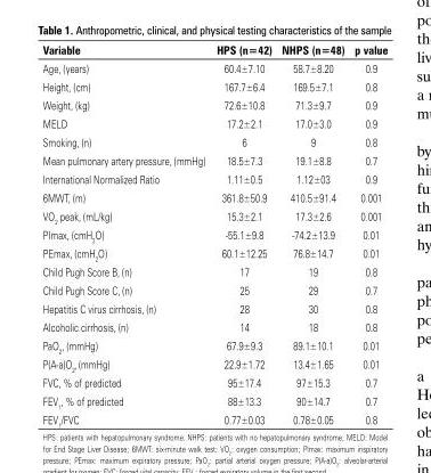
<table><thead><tr><td>Variable</td><td>HPS (n=42)</td><td>NHPS (n=48)</td><td>p value</td></tr></thead><tbody><tr><td>Age, (years)</td><td>60.4±7.10</td><td>58.7±8.20</td><td>0.9</td></tr><tr><td>Height, (cm)</td><td>167.7±6.4</td><td>169.5±7.1</td><td>0.8</td></tr><tr><td>Weight, (kg)</td><td>72.6±10.8</td><td>71.3±9.7</td><td>0.9</td></tr><tr><td>MELD</td><td>17.2±2.1</td><td>17.0±3.0</td><td>0.9</td></tr><tr><td>Smoking, (n)</td><td>6</td><td>9</td><td>0.8</td></tr><tr><td>Mean pulmonary artery pressure, (mmHg)</td><td>18.5±7.3</td><td>19.1±8.8</td><td>0.7</td></tr><tr><td>International Normalized Ratio</td><td>1.11±0.5</td><td>1.12±03</td><td>0.9</td></tr><tr><td>6MWT, (m)</td><td>361.8±50.9</td><td>410.5±91.4</td><td>0.001</td></tr><tr><td>VO<sub>2</sub> peak, (mL/kg)</td><td>15.3±2.1</td><td>17.3±2.6</td><td>0.001</td></tr><tr><td>PImax, (cmH<sub>2</sub>O)</td><td>-55.1±9.8</td><td>-74.2±13.9</td><td>0.01</td></tr><tr><td>PEmax, (cmH<sub>2</sub>O)</td><td>60.1±12.25</td><td>76.8±14.7</td><td>0.01</td></tr><tr><td>Child Pugh Score B, (n)</td><td>17</td><td>19</td><td>0.8</td></tr><tr><td>Child Pugh Score C, (n)</td><td>25</td><td>29</td><td>0.7</td></tr><tr><td>Hepatitis C virus cirrhosis, (n)</td><td>28</td><td>30</td><td>0.8</td></tr><tr><td>Alcoholic cirrhosis, (n)</td><td>14</td><td>18</td><td>0.8</td></tr><tr><td>PaO<sub>2</sub>, (mmHg)</td><td>67.9±9.3</td><td>89.1±10.1</td><td>0.01</td></tr><tr><td>P(A-a)O<sub>2</sub>, (mmHg)</td><td>22.9±1.72</td><td>13.4±1.65</td><td>0.01</td></tr><tr><td>FVC, % of predicted</td><td>95±17.4</td><td>97±15.3</td><td>0.7</td></tr><tr><td>FEV<sub>1</sub>, % of predicted</td><td>88±13.3</td><td>90±14.7</td><td>0.7</td></tr><tr><td>FEV<sub>1</sub>/FVC</td><td>0.77±0.03</td><td>0.78±0.05</td><td>0.8</td></tr></tbody></table>